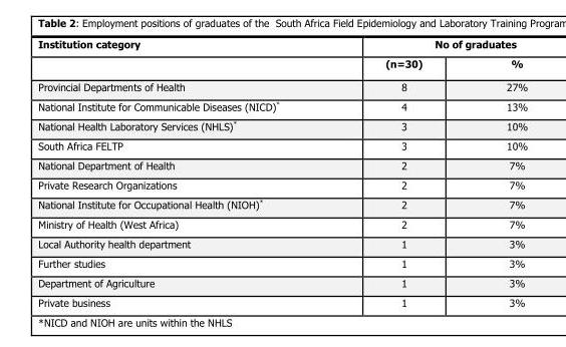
<table><thead><tr><td rowspan="2">Institution category</td><td colspan="2">No of graduates</td></tr><tr><td>(n=30)</td><td>%</td></tr></thead><tbody><tr><td>Provincial Departments of Health</td><td>8</td><td>27%</td></tr><tr><td>National Institute for Communicable Diseases (NICD)*</td><td>4</td><td>13%</td></tr><tr><td>National Health Laboratory Services (NHLS)*</td><td>3</td><td>10%</td></tr><tr><td>South Africa FELTP</td><td>3</td><td>10%</td></tr><tr><td>National Department of Health</td><td>2</td><td>7%</td></tr><tr><td>Private Research Organizations</td><td>2</td><td>7%</td></tr><tr><td>National Institute for Occupational Health (NIOH)*</td><td>2</td><td>7%</td></tr><tr><td>Ministry of Health (West Africa)</td><td>2</td><td>7%</td></tr><tr><td>Local Authority health department</td><td>1</td><td>3%</td></tr><tr><td>Further studies</td><td>1</td><td>3%</td></tr><tr><td>Department of Agriculture</td><td>1</td><td>3%</td></tr><tr><td>Private business</td><td>1</td><td>3%</td></tr></tbody></table>